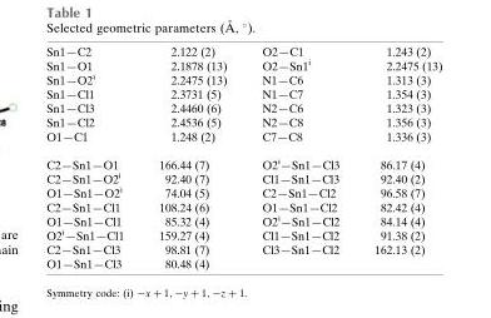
<table><tbody><tr><td>Sn1—C2</td><td>2.122 (2)</td><td>O2—C1</td><td>1.243 (2)</td></tr><tr><td>Sn1—O1</td><td>2.1878 (13)</td><td>O2—Sn1<sup>i</sup></td><td>2.2475 (13)</td></tr><tr><td>Sn1—O2<sup>i</sup></td><td>2.2475 (13)</td><td>N1—C6</td><td>1.313 (3)</td></tr><tr><td>Sn1—Cl1</td><td>2.3731 (5)</td><td>N1—C7</td><td>1.354 (3)</td></tr><tr><td>Sn1—Cl3</td><td>2.4460 (6)</td><td>N2—C6</td><td>1.323 (3)</td></tr><tr><td>Sn1—Cl2</td><td>2.4536 (5)</td><td>N2—C8</td><td>1.356 (3)</td></tr><tr><td>O1—C1</td><td>1.248 (2)</td><td>C7—C8</td><td>1.336 (3)</td></tr><tr><td>C2—Sn1—O1</td><td>166.44 (7)</td><td>O2<sup>i</sup>—Sn1—Cl3</td><td>86.17 (4)</td></tr><tr><td>C2—Sn1—O2<sup>i</sup></td><td>92.40 (7)</td><td>Cl1—Sn1—Cl3</td><td>92.40 (2)</td></tr><tr><td>O1—Sn1—O2<sup>i</sup></td><td>74.04 (5)</td><td>C2—Sn1—Cl2</td><td>96.58 (7)</td></tr><tr><td>C2—Sn1—Cl1</td><td>108.24 (6)</td><td>O1—Sn1—Cl2</td><td>82.42 (4)</td></tr><tr><td>O1—Sn1—Cl1</td><td>85.32 (4)</td><td>O2<sup>i</sup>—Sn1—Cl2</td><td>84.14 (4)</td></tr><tr><td>O2<sup>i</sup>—Sn1—Cl1</td><td>159.27 (4)</td><td>Cl1—Sn1—Cl2</td><td>91.38 (2)</td></tr><tr><td>C2—Sn1—Cl3</td><td>98.81 (7)</td><td>Cl3—Sn1—Cl2</td><td>162.13 (2)</td></tr><tr><td>O1—Sn1—Cl3</td><td>80.48 (4)</td><td></td><td></td></tr></tbody></table>